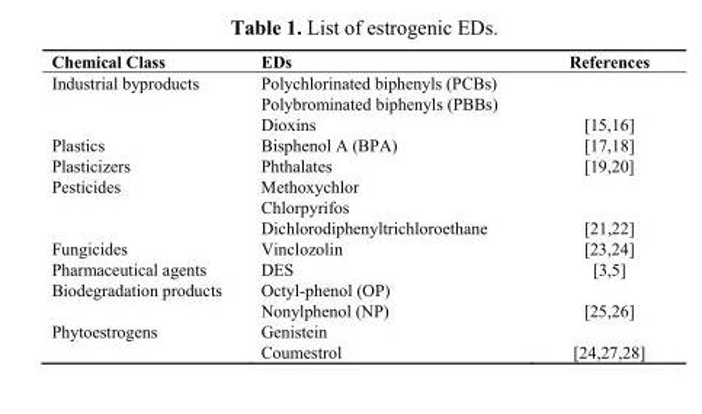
<table><thead><tr><td>Chemical Class</td><td>EDs</td><td>References</td></tr></thead><tbody><tr><td rowspan="3">Industrial byproducts</td><td>Polychlorinated biphenyls (PCBs)</td><td></td></tr><tr><td>Polybrominated biphenyls (PBBs)</td><td></td></tr><tr><td>Dioxins</td><td>[15,16]</td></tr><tr><td>Plastics</td><td>Bisphenol A (BPA)</td><td>[17,18]</td></tr><tr><td>Plasticizers</td><td>Phthalates</td><td>[19,20]</td></tr><tr><td rowspan="3">Pesticides</td><td>Methoxychlor</td><td></td></tr><tr><td>Chlorpyrifos</td><td></td></tr><tr><td>Dichlorodiphenyltrichloroethane</td><td>[21,22]</td></tr><tr><td>Fungicides</td><td>Vinclozolin</td><td>[23,24]</td></tr><tr><td>Pharmaceutical agents</td><td>DES</td><td>[3,5]</td></tr><tr><td rowspan="2">Biodegradation products</td><td>Octyl-phenol (OP)</td><td></td></tr><tr><td>Nonylphenol (NP)</td><td>[25,26]</td></tr><tr><td rowspan="2">Phytoestrogens</td><td>Genistein</td><td></td></tr><tr><td>Coumestrol</td><td>[24,27,28]</td></tr></tbody></table>